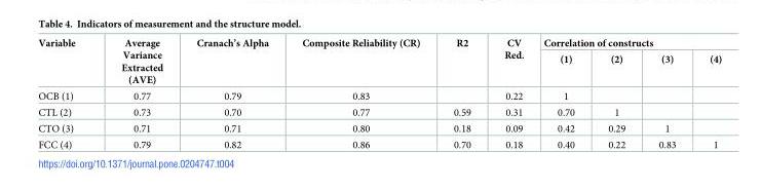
<table><thead><tr><td rowspan="2">Variable</td><td rowspan="2">Average Variance Extracted (AVE)</td><td rowspan="2">Cranach’s Alpha</td><td rowspan="2">Composite Reliability (CR)</td><td rowspan="2">R2</td><td rowspan="2">CV Red.</td><td colspan="4">Correlation of constructs</td></tr><tr><td>(1)</td><td>(2)</td><td>(3)</td><td>(4)</td></tr></thead><tbody><tr><td>OCB (1)</td><td>0.77</td><td>0.79</td><td>0.83</td><td></td><td>0.22</td><td>1</td><td></td><td></td><td></td></tr><tr><td>CTL (2)</td><td>0.73</td><td>0.70</td><td>0.77</td><td>0.59</td><td>0.31</td><td>0.70</td><td>1</td><td></td><td></td></tr><tr><td>CTO (3)</td><td>0.71</td><td>0.71</td><td>0.80</td><td>0.18</td><td>0.09</td><td>0.42</td><td>0.29</td><td>1</td><td></td></tr><tr><td>FCC (4)</td><td>0.79</td><td>0.82</td><td>0.86</td><td>0.70</td><td>0.18</td><td>0.40</td><td>0.22</td><td>0.83</td><td>1</td></tr></tbody></table>